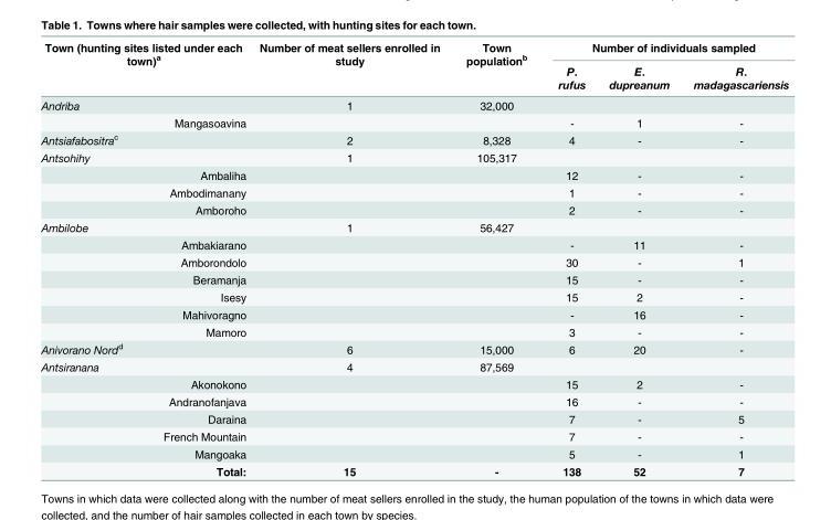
<table><thead><tr><td rowspan="2">Town (hunting sites listed under each town)<sup>a</sup></td><td rowspan="2">Number of meat sellers enrolled in study</td><td rowspan="2">Town population<sup>b</sup></td><td colspan="3">Number of individuals sampled</td></tr><tr><td>P. rufus</td><td>E. dupreanum</td><td>R. madagascariensis</td></tr></thead><tbody><tr><td>Andriba</td><td>1</td><td>32,000</td><td></td><td></td><td></td></tr><tr><td>Mangasoavina</td><td></td><td></td><td>-</td><td>1</td><td>-</td></tr><tr><td>Antsiafabositra<sup>c</sup></td><td>2</td><td>8,328</td><td>4</td><td>-</td><td>-</td></tr><tr><td>Antsohihy</td><td>1</td><td>105,317</td><td></td><td></td><td></td></tr><tr><td>Ambaliha</td><td></td><td></td><td>12</td><td>-</td><td>-</td></tr><tr><td>Ambodimanany</td><td></td><td></td><td>1</td><td>-</td><td>-</td></tr><tr><td>Amboroho</td><td></td><td></td><td>2</td><td>-</td><td>-</td></tr><tr><td>Ambilobe</td><td>1</td><td>56,427</td><td></td><td></td><td></td></tr><tr><td>Ambakiarano</td><td></td><td></td><td>-</td><td>11</td><td>-</td></tr><tr><td>Amborondolo</td><td></td><td></td><td>30</td><td>-</td><td>1</td></tr><tr><td>Beramanja</td><td></td><td></td><td>15</td><td>-</td><td>-</td></tr><tr><td>Isesy</td><td></td><td></td><td>15</td><td>2</td><td>-</td></tr><tr><td>Mahivoragno</td><td></td><td></td><td>-</td><td>16</td><td>-</td></tr><tr><td>Mamoro</td><td></td><td></td><td>3</td><td>-</td><td>-</td></tr><tr><td>Anivorano Nord<sup>d</sup></td><td>6</td><td>15,000</td><td>6</td><td>20</td><td>-</td></tr><tr><td>Antsiranana</td><td>4</td><td>87,569</td><td></td><td></td><td></td></tr><tr><td>Akonokono</td><td></td><td></td><td>15</td><td>2</td><td>-</td></tr><tr><td>Andranofanjava</td><td></td><td></td><td>16</td><td>-</td><td>-</td></tr><tr><td>Daraina</td><td></td><td></td><td>7</td><td>-</td><td>5</td></tr><tr><td>French Mountain</td><td></td><td></td><td>7</td><td>-</td><td>-</td></tr><tr><td>Mangoaka</td><td></td><td></td><td>5</td><td>-</td><td>1</td></tr><tr><td>Total:</td><td>15</td><td>-</td><td>138</td><td>52</td><td>7</td></tr></tbody></table>